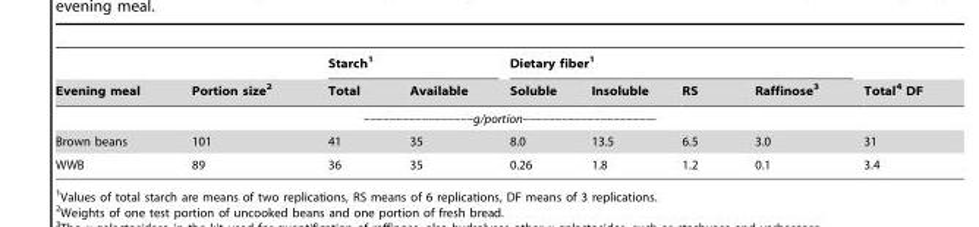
<table><thead><tr><td rowspan="2">Evening meal</td><td rowspan="2">Portion size<sup>2</sup></td><td colspan="2">Starch<sup>1</sup></td><td colspan="4">Dietary fiber<sup>1</sup></td><td rowspan="2">Total<sup>4</sup> DF</td></tr><tr><td>Total</td><td>Available</td><td>Soluble</td><td>Insoluble</td><td>RS</td><td>Raffinose<sup>3</sup></td></tr></thead><tbody><tr><td colspan="9">–––––––––––––––––g/portion––––––––––––––––––––-</td></tr><tr><td>Brown beans</td><td>101</td><td>41</td><td>35</td><td>8.0</td><td>13.5</td><td>6.5</td><td>3.0</td><td>31</td></tr><tr><td>WWB</td><td>89</td><td>36</td><td>35</td><td>0.26</td><td>1.8</td><td>1.2</td><td>0.1</td><td>3.4</td></tr></tbody></table>